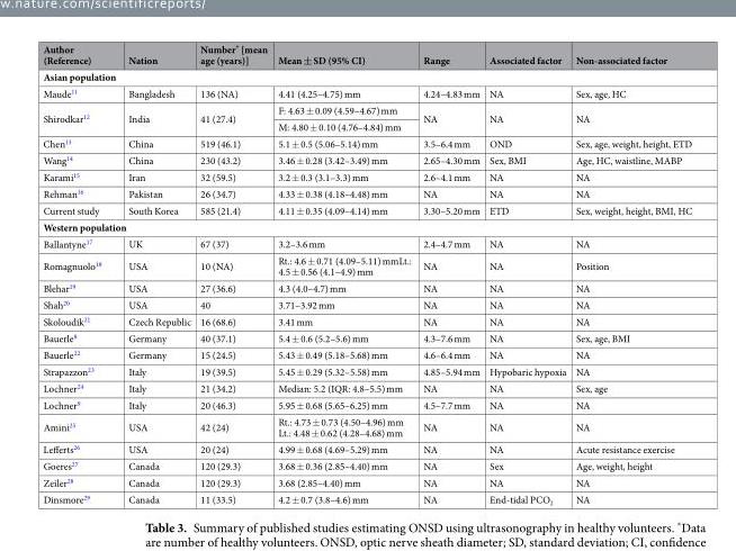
<table><thead><tr><td>Author (Reference)</td><td>Nation</td><td>Number* [mean age (years)]</td><td>Mean ± SD (95% CI)</td><td>Range</td><td>Associated factor</td><td>Non-associated factor</td></tr></thead><tbody><tr><td colspan="7">Asian population</td></tr><tr><td>Maude<sup>11</sup></td><td>Bangladesh</td><td>136 (NA)</td><td>4.41 (4.25–4.75) mm</td><td>4.24–4.83 mm</td><td>NA</td><td>Sex, age, HC</td></tr><tr><td rowspan="2">Shirodkar<sup>12</sup></td><td rowspan="2">India</td><td rowspan="2">41 (27.4)</td><td>F: 4.63 ± 0.09 (4.59–4.67) mm</td><td rowspan="2">NA</td><td rowspan="2">NA</td><td rowspan="2">NA</td></tr><tr><td>M: 4.80 ± 0.10 (4.76–4.84) mm</td></tr><tr><td>Chen<sup>13</sup></td><td>China</td><td>519 (46.1)</td><td>5.1 ± 0.5 (5.06–5.14) mm</td><td>3.5–6.4 mm</td><td>OND</td><td>Sex, age, weight, height, ETD</td></tr><tr><td>Wang<sup>14</sup></td><td>China</td><td>230 (43.2)</td><td>3.46 ± 0.28 (3.42–3.49) mm</td><td>2.65–4.30 mm</td><td>Sex, BMI</td><td>Age, HC, waistline, MABP</td></tr><tr><td>Karami<sup>15</sup></td><td>Iran</td><td>32 (59.5)</td><td>3.2 ± 0.3 (3.1–3.3) mm</td><td>2.6–4.1 mm</td><td>NA</td><td>NA</td></tr><tr><td>Rehman<sup>16</sup></td><td>Pakistan</td><td>26 (34.7)</td><td>4.33 ± 0.38 (4.18–4.48) mm</td><td>NA</td><td>NA</td><td>NA</td></tr><tr><td>Current study</td><td>South Korea</td><td>585 (21.4)</td><td>4.11 ± 0.35 (4.09–4.14) mm</td><td>3.30–5.20 mm</td><td>ETD</td><td>Sex, weight, height, BMI, HC</td></tr><tr><td colspan="7">Western population</td></tr><tr><td>Ballantyne<sup>17</sup></td><td>UK</td><td>67 (37)</td><td>3.2–3.6 mm</td><td>2.4–4.7 mm</td><td>NA</td><td>NA</td></tr><tr><td>Romagnuolo<sup>18</sup></td><td>USA</td><td>10 (NA)</td><td>Rt.: 4.6 ± 0.71 (4.09–5.11) mmLt.: 4.5 ± 0.56 (4.1–4.9) mm</td><td>NA</td><td>NA</td><td>Position</td></tr><tr><td>Blehar<sup>19</sup></td><td>USA</td><td>27 (36.6)</td><td>4.3 (4.0–4.7) mm</td><td>NA</td><td>NA</td><td>NA</td></tr><tr><td>Shah<sup>20</sup></td><td>USA</td><td>40</td><td>3.71–3.92 mm</td><td>NA</td><td>NA</td><td>NA</td></tr><tr><td>Skoloudik<sup>21</sup></td><td>Czech Republic</td><td>16 (68.6)</td><td>3.41 mm</td><td>NA</td><td>NA</td><td>NA</td></tr><tr><td>Bauerle<sup>8</sup></td><td>Germany</td><td>40 (37.1)</td><td>5.4 ± 0.6 (5.2–5.6) mm</td><td>4.3–7.6 mm</td><td>NA</td><td>Sex, age, BMI</td></tr><tr><td>Bauerle<sup>22</sup></td><td>Germany</td><td>15 (24.5)</td><td>5.43 ± 0.49 (5.18–5.68) mm</td><td>4.6–6.4 mm</td><td>NA</td><td>NA</td></tr><tr><td>Strapazzon<sup>23</sup></td><td>Italy</td><td>19 (39.5)</td><td>5.45 ± 0.29 (5.32–5.58) mm</td><td>4.85–5.94 mm</td><td>Hypobaric hypoxia</td><td>NA</td></tr><tr><td>Lochner<sup>24</sup></td><td>Italy</td><td>21 (34.2)</td><td>Median: 5.2 (IQR: 4.8–5.5) mm</td><td>NA</td><td>NA</td><td>Sex, age</td></tr><tr><td>Lochner<sup>9</sup></td><td>Italy</td><td>20 (46.3)</td><td>5.95 ± 0.68 (5.65–6.25) mm</td><td>4.5–7.7 mm</td><td>NA</td><td>NA</td></tr><tr><td>Amini<sup>25</sup></td><td>USA</td><td>42 (24)</td><td>Rt.: 4.73 ± 0.73 (4.50–4.96) mm Lt.: 4.48 ± 0.62 (4.28–4.68) mm</td><td>NA</td><td>NA</td><td>NA</td></tr><tr><td>Lefferts<sup>26</sup></td><td>USA</td><td>20 (24)</td><td>4.99 ± 0.68 (4.69–5.29) mm</td><td>NA</td><td>NA</td><td>Acute resistance exercise</td></tr><tr><td>Goeres<sup>27</sup></td><td>Canada</td><td>120 (29.3)</td><td>3.68 ± 0.36 (2.85–4.40) mm</td><td>NA</td><td>Sex</td><td>Age, weight, height</td></tr><tr><td>Zeiler<sup>28</sup></td><td>Canada</td><td>120 (29.3)</td><td>3.68 (2.85–4.40) mm</td><td>NA</td><td>NA</td><td>NA</td></tr><tr><td>Dinsmore<sup>29</sup></td><td>Canada</td><td>11 (33.5)</td><td>4.2 ± 0.7 (3.8–4.6) mm</td><td>NA</td><td>End-tidal PCO<sub>2</sub></td><td>NA</td></tr></tbody></table>